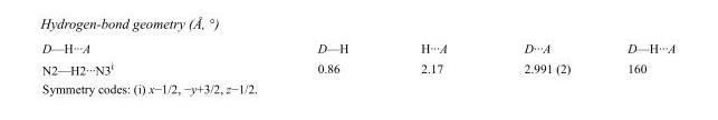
<table><tbody><tr><td>D—H···A</td><td>D—H</td><td>H···A</td><td>D···A</td><td>D—H···A</td></tr><tr><td>N2—H2···N3<sup>i</sup></td><td>0.86</td><td>2.17</td><td>2.991 (2)</td><td>160</td></tr></tbody></table>